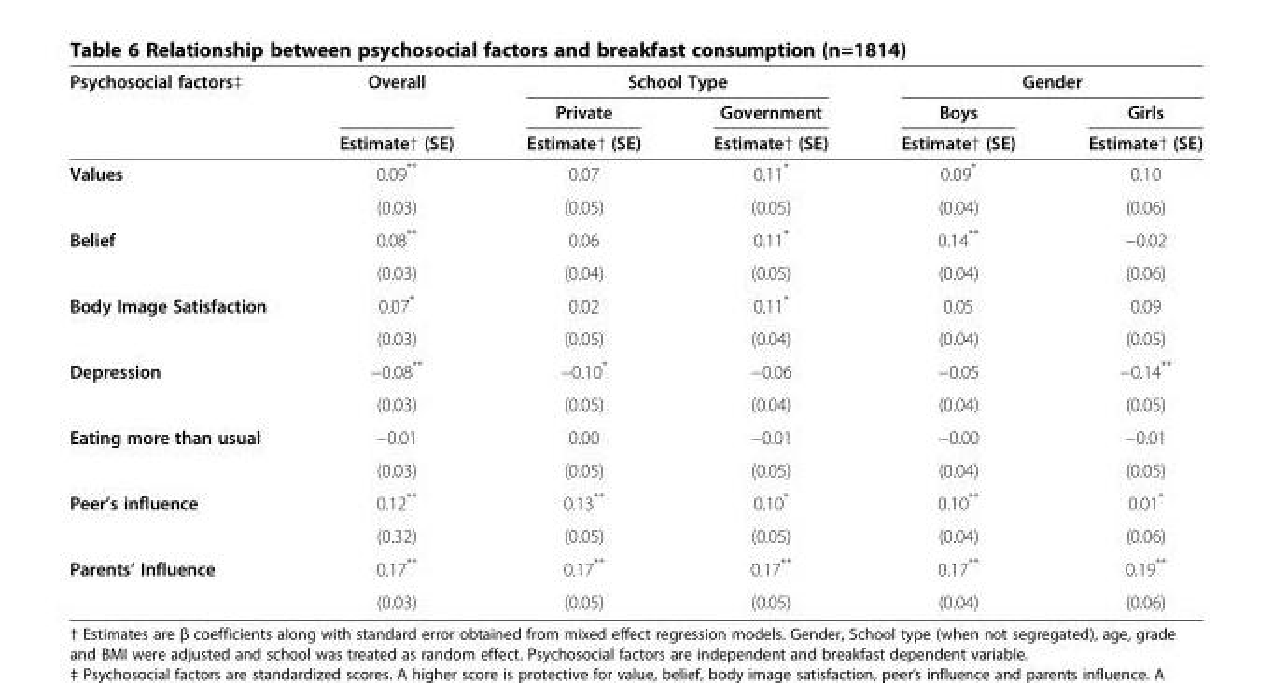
<table><thead><tr><td rowspan="3">Psychosocial factors‡</td><td rowspan="3">Overall Estimate† (SE)</td><td colspan="2">School Type</td><td colspan="2">Gender</td></tr><tr><td rowspan="2">Private Estimate† (SE)</td><td rowspan="2">Government Estimate† (SE)</td><td rowspan="2">Boys Estimate† (SE)</td><td rowspan="2">Girls Estimate† (SE)</td></tr><tr></tr></thead><tbody><tr><td rowspan="2">Values</td><td>0.09**</td><td>0.07</td><td>0.11*</td><td>0.09*</td><td>0.10</td></tr><tr><td>(0.03)</td><td>(0.05)</td><td>(0.05)</td><td>(0.04)</td><td>(0.06)</td></tr><tr><td rowspan="2">Belief</td><td>0.08**</td><td>0.06</td><td>0.11*</td><td>0.14**</td><td>−0.02</td></tr><tr><td>(0.03)</td><td>(0.04)</td><td>(0.05)</td><td>(0.04)</td><td>(0.06)</td></tr><tr><td rowspan="2">Body Image Satisfaction</td><td>0.07*</td><td>0.02</td><td>0.11*</td><td>0.05</td><td>0.09</td></tr><tr><td>(0.03)</td><td>(0.05)</td><td>(0.04)</td><td>(0.04)</td><td>(0.05)</td></tr><tr><td rowspan="2">Depression</td><td>−0.08**</td><td>−0.10*</td><td>−0.06</td><td>−0.05</td><td>−0.14**</td></tr><tr><td>(0.03)</td><td>(0.05)</td><td>(0.04)</td><td>(0.04)</td><td>(0.05)</td></tr><tr><td rowspan="2">Eating more than usual</td><td>−0.01</td><td>0.00</td><td>−0.01</td><td>−0.00</td><td>−0.01</td></tr><tr><td>(0.03)</td><td>(0.05)</td><td>(0.05)</td><td>(0.04)</td><td>(0.05)</td></tr><tr><td rowspan="2">Peer’s influence</td><td>0.12**</td><td>0.13**</td><td>0.10*</td><td>0.10**</td><td>0.01*</td></tr><tr><td>(0.32)</td><td>(0.05)</td><td>(0.05)</td><td>(0.04)</td><td>(0.06)</td></tr><tr><td rowspan="2">Parents’ Influence</td><td>0.17**</td><td>0.17**</td><td>0.17**</td><td>0.17**</td><td>0.19**</td></tr><tr><td>(0.03)</td><td>(0.05)</td><td>(0.05)</td><td>(0.04)</td><td>(0.06)</td></tr></tbody></table>